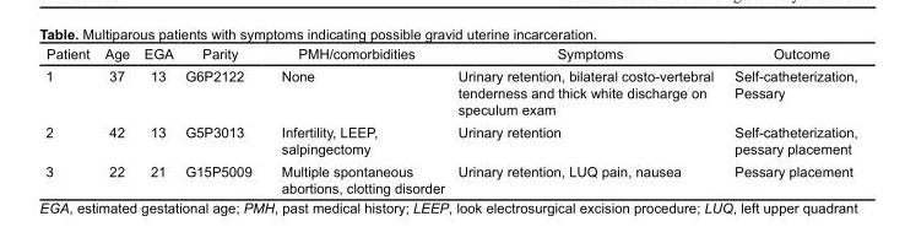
<table><thead><tr><td>Patient</td><td>Age</td><td>EGA</td><td>Parity</td><td>PMH/comorbidities</td><td>Symptoms</td><td>Outcome</td></tr></thead><tbody><tr><td>1</td><td>37</td><td>13</td><td>G6P2122</td><td>None</td><td>Urinary retention, bilateral costo-vertebral tenderness and thick white discharge on speculum exam</td><td>Self-catheterization, Pessary</td></tr><tr><td>2</td><td>42</td><td>13</td><td>G5P3013</td><td>Infertility, LEEP, salpingectomy</td><td>Urinary retention</td><td>Self-catheterization, pessary placement</td></tr><tr><td>3</td><td>22</td><td>21</td><td>G15P5009</td><td>Multiple spontaneous abortions, clotting disorder</td><td>Urinary retention, LUQ pain, nausea</td><td>Pessary placement</td></tr></tbody></table>